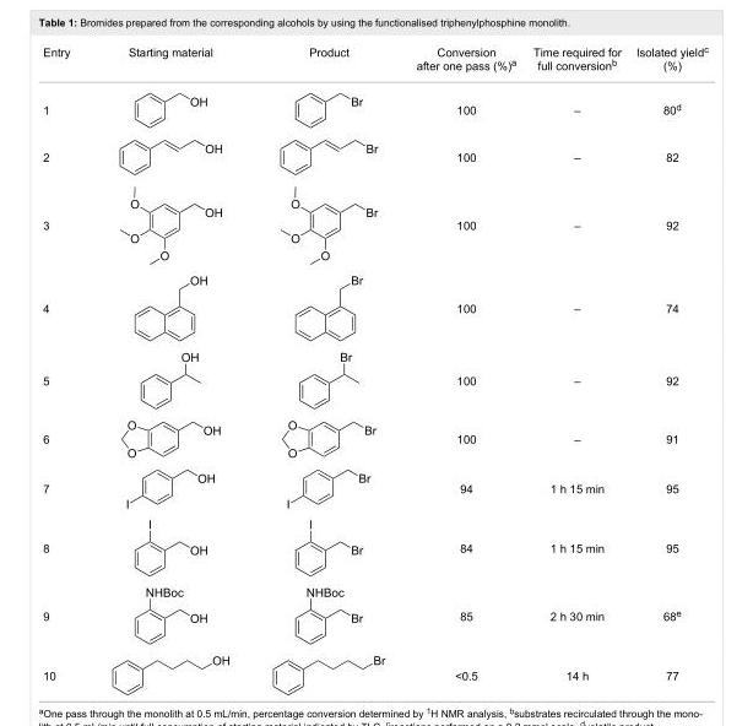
<table><tbody><tr><td>Entry</td><td>Starting material</td><td>Product</td><td>Conversion after one pass (%)<sup>a</sup></td><td>Time required for full conversion<sup>b</sup></td><td>Isolated yield<sup>c</sup> (%)</td></tr><tr><td>1</td><td></td><td></td><td>100</td><td>–</td><td>80<sup>d</sup></td></tr><tr><td>2</td><td></td><td></td><td>100</td><td>–</td><td>82</td></tr><tr><td>3</td><td></td><td></td><td>100</td><td>–</td><td>92</td></tr><tr><td>4</td><td></td><td></td><td>100</td><td>–</td><td>74</td></tr><tr><td>5</td><td></td><td></td><td>100</td><td>–</td><td>92</td></tr><tr><td>6</td><td></td><td></td><td>100</td><td>–</td><td>91</td></tr><tr><td>7</td><td></td><td></td><td>94</td><td>1 h 15 min</td><td>95</td></tr><tr><td>8</td><td></td><td></td><td>84</td><td>1 h 15 min</td><td>95</td></tr><tr><td>9</td><td></td><td></td><td>85</td><td>2 h 30 min</td><td>68<sup>e</sup></td></tr><tr><td>10</td><td></td><td></td><td>&lt;0.5</td><td>14 h</td><td>77</td></tr></tbody></table>